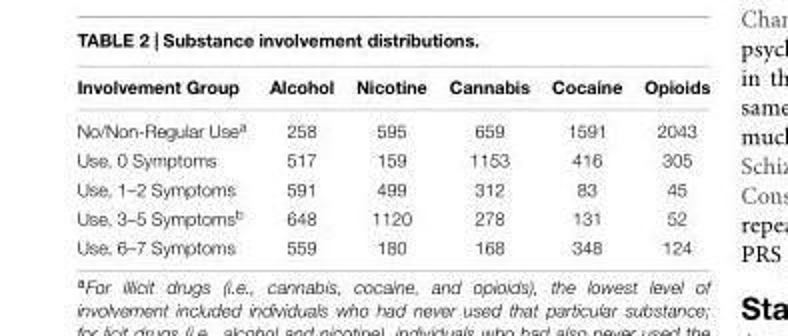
<table><thead><tr><td>Involvement Group</td><td>Alcohol</td><td>Nicotine</td><td>Cannabis</td><td>Cocaine</td><td>Opioids</td></tr></thead><tbody><tr><td>No/Non-Regular Use<sup>a</sup></td><td>258</td><td>595</td><td>659</td><td>1591</td><td>2043</td></tr><tr><td>Use, 0 Symptoms</td><td>517</td><td>159</td><td>1153</td><td>416</td><td>305</td></tr><tr><td>Use, 1–2 Symptoms</td><td>591</td><td>499</td><td>312</td><td>83</td><td>45</td></tr><tr><td>Use, 3–5 Symptoms<sup>b</sup></td><td>648</td><td>1120</td><td>278</td><td>131</td><td>52</td></tr><tr><td>Use, 6–7 Symptoms</td><td>559</td><td>180</td><td>168</td><td>348</td><td>124</td></tr></tbody></table>